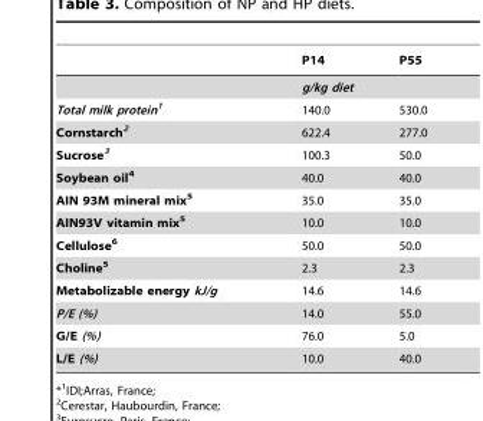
<table><thead><tr><td></td><td>P14</td><td>P55</td></tr></thead><tbody><tr><td></td><td colspan="2">g/kg diet</td></tr><tr><td>Total milk protein<sup>1</sup></td><td>140.0</td><td>530.0</td></tr><tr><td>Cornstarch2</td><td>622.4</td><td>277.0</td></tr><tr><td>Sucrose3</td><td>100.3</td><td>50.0</td></tr><tr><td>Soybean oil4</td><td>40.0</td><td>40.0</td></tr><tr><td>AIN 93M mineral mix5</td><td>35.0</td><td>35.0</td></tr><tr><td>AIN93V vitamin mix5</td><td>10.0</td><td>10.0</td></tr><tr><td>Cellulose6</td><td>50.0</td><td>50.0</td></tr><tr><td>Choline5</td><td>2.3</td><td>2.3</td></tr><tr><td>Metabolizable energy kJ/g</td><td>14.6</td><td>14.6</td></tr><tr><td>P/E (%)</td><td>14.0</td><td>55.0</td></tr><tr><td>G/E (%)</td><td>76.0</td><td>5.0</td></tr><tr><td>L/E (%)</td><td>10.0</td><td>40.0</td></tr></tbody></table>